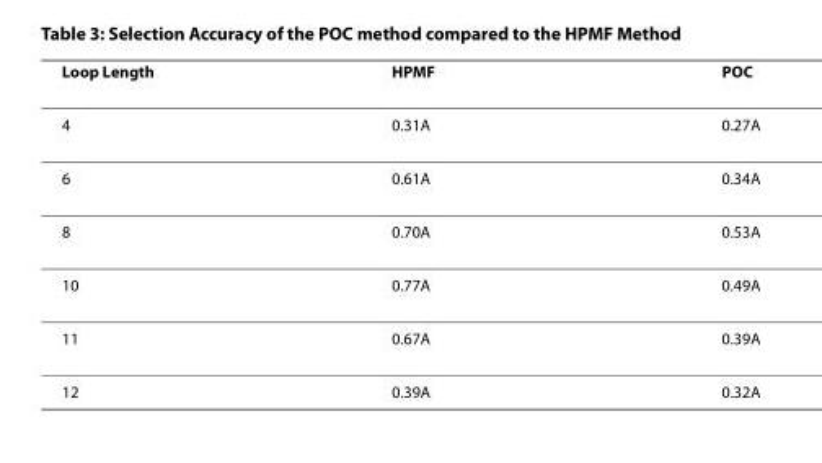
<table><thead><tr><td>Loop Length</td><td>HPMF</td><td>POC</td></tr></thead><tbody><tr><td>4</td><td>0.31A</td><td>0.27A</td></tr><tr><td>6</td><td>0.61A</td><td>0.34A</td></tr><tr><td>8</td><td>0.70A</td><td>0.53A</td></tr><tr><td>10</td><td>0.77A</td><td>0.49A</td></tr><tr><td>11</td><td>0.67A</td><td>0.39A</td></tr><tr><td>12</td><td>0.39A</td><td>0.32A</td></tr></tbody></table>